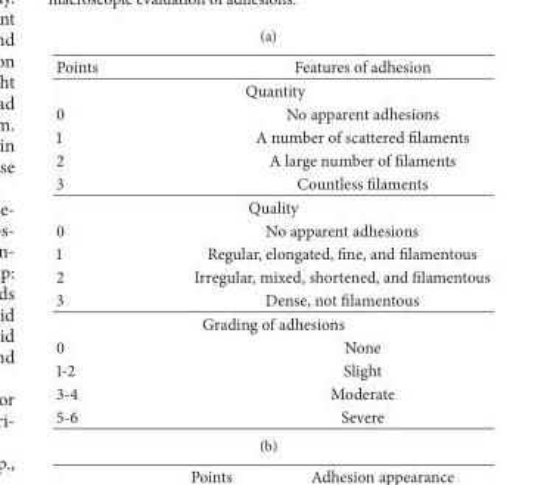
<table><thead><tr><td>Points</td><td>Features of adhesion</td></tr></thead><tbody><tr><td colspan="2">Quantity</td></tr><tr><td>0</td><td>No apparent adhesions</td></tr><tr><td>1</td><td>A number of scattered filaments</td></tr><tr><td>2</td><td>A large number of filaments</td></tr><tr><td>3</td><td>Countless filaments</td></tr><tr><td colspan="2">Quality</td></tr><tr><td>0</td><td>No apparent adhesions</td></tr><tr><td>1</td><td>Regular, elongated, fine, and filamentous</td></tr><tr><td>2</td><td>Irregular, mixed, shortened, and filamentous</td></tr><tr><td>3</td><td>Dense, not filamentous</td></tr><tr><td colspan="2">Grading of adhesions</td></tr><tr><td>0</td><td>None</td></tr><tr><td>1-2</td><td>Slight</td></tr><tr><td>3-4</td><td>Moderate</td></tr><tr><td>5-6</td><td>Severe</td></tr></tbody></table>